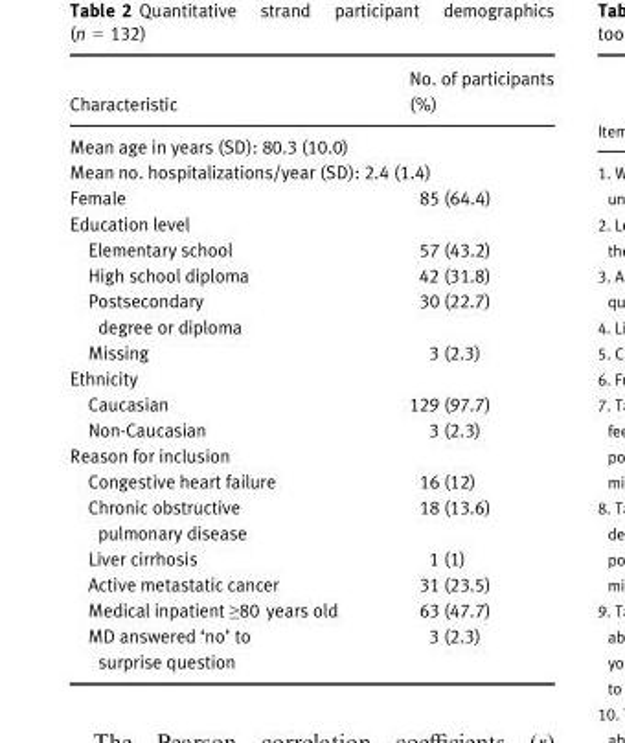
<table><thead><tr><td>Characteristic</td><td>No. of participants (%)</td></tr></thead><tbody><tr><td colspan="2">Mean age in years (SD): 80.3 (10.0)</td></tr><tr><td colspan="2">Mean no. hospitalizations/year (SD): 2.4 (1.4)</td></tr><tr><td>Female</td><td>85 (64.4)</td></tr><tr><td colspan="2">Education level</td></tr><tr><td>Elementary school</td><td>57 (43.2)</td></tr><tr><td>High school diploma</td><td>42 (31.8)</td></tr><tr><td>Postsecondary degree or diploma</td><td>30 (22.7)</td></tr><tr><td>Missing</td><td>3 (2.3)</td></tr><tr><td colspan="2">Ethnicity</td></tr><tr><td>Caucasian</td><td>129 (97.7)</td></tr><tr><td>Non-Caucasian</td><td>3 (2.3)</td></tr><tr><td colspan="2">Reason for inclusion</td></tr><tr><td>Congestive heart failure</td><td>16 (12)</td></tr><tr><td>Chronic obstructive pulmonary disease</td><td>18 (13.6)</td></tr><tr><td>Liver cirrhosis</td><td>1 (1)</td></tr><tr><td>Active metastatic cancer</td><td>31 (23.5)</td></tr><tr><td>Medical inpatient ≥80 years old</td><td>63 (47.7)</td></tr><tr><td>MD answered ‘no’ to surprise question</td><td>3 (2.3)</td></tr></tbody></table>